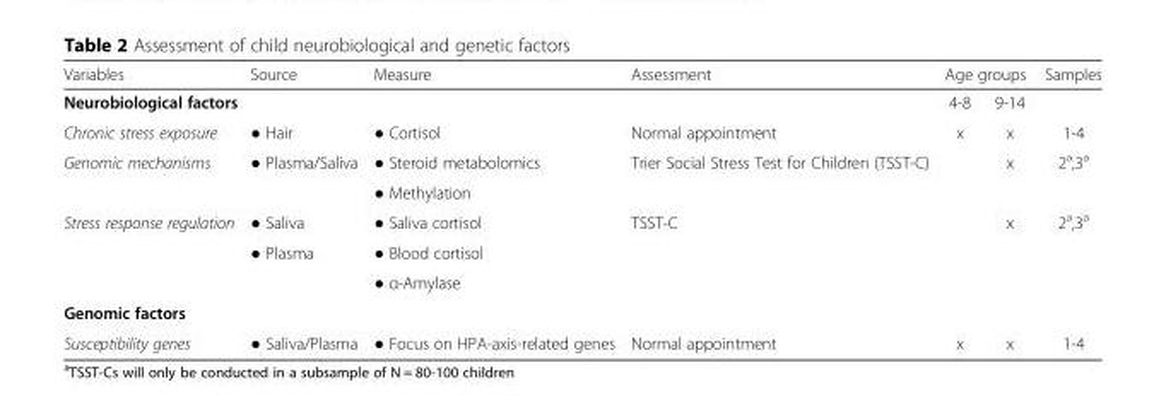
<table><thead><tr><td>Variables</td><td>Source</td><td rowspan="2">Measure</td><td rowspan="2">Assessment</td><td colspan="2">Age groups</td><td rowspan="2">Samples</td></tr><tr><td colspan="2">Neurobiological factors</td><td>4-8</td><td>9-14</td></tr></thead><tbody><tr><td>Chronic stress exposure</td><td>● Hair</td><td>● Cortisol</td><td>Normal appointment</td><td>x</td><td>x</td><td>1-4</td></tr><tr><td rowspan="2">Genomic mechanisms</td><td rowspan="2">● Plasma/Saliva</td><td>● Steroid metabolomics</td><td rowspan="2">Trier Social Stress Test for Children (TSST-C)</td><td rowspan="2"></td><td rowspan="2">x</td><td rowspan="2">2<sup>a</sup>,3<sup>a</sup></td></tr><tr><td>● Methylation</td></tr><tr><td rowspan="3">Stress response regulation</td><td>● Saliva</td><td>● Saliva cortisol</td><td rowspan="3">TSST-C</td><td rowspan="3"></td><td rowspan="3">x</td><td rowspan="3">2<sup>a</sup>,3<sup>a</sup></td></tr><tr><td rowspan="2">● Plasma</td><td>● Blood cortisol</td></tr><tr><td>● α-Amylase</td></tr><tr><td colspan="7">Genomic factors</td></tr><tr><td>Susceptibility genes</td><td>● Saliva/Plasma</td><td>● Focus on HPA-axis-related genes</td><td>Normal appointment</td><td>x</td><td>x</td><td>1-4</td></tr></tbody></table>